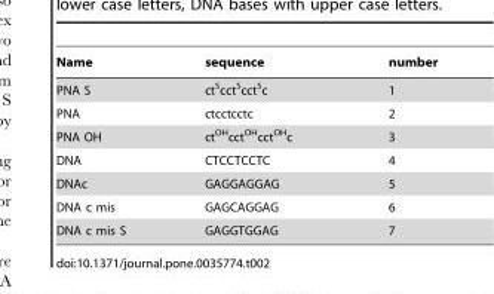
<table><thead><tr><td>Name</td><td>sequence</td><td>number</td></tr></thead><tbody><tr><td>PNA S</td><td>ct<sup>S</sup>cct<sup>S</sup>cct<sup>S</sup>c</td><td>1</td></tr><tr><td>PNA</td><td>ctcctcctc</td><td>2</td></tr><tr><td>PNA OH</td><td>ct<sup>OH</sup>cct<sup>OH</sup>cct<sup>OH</sup>c</td><td>3</td></tr><tr><td>DNA</td><td>CTCCTCCTC</td><td>4</td></tr><tr><td>DNAc</td><td>GAGGAGGAG</td><td>5</td></tr><tr><td>DNA c mis</td><td>GAGCAGGAG</td><td>6</td></tr><tr><td>DNA c mis S</td><td>GAGGTGGAG</td><td>7</td></tr></tbody></table>